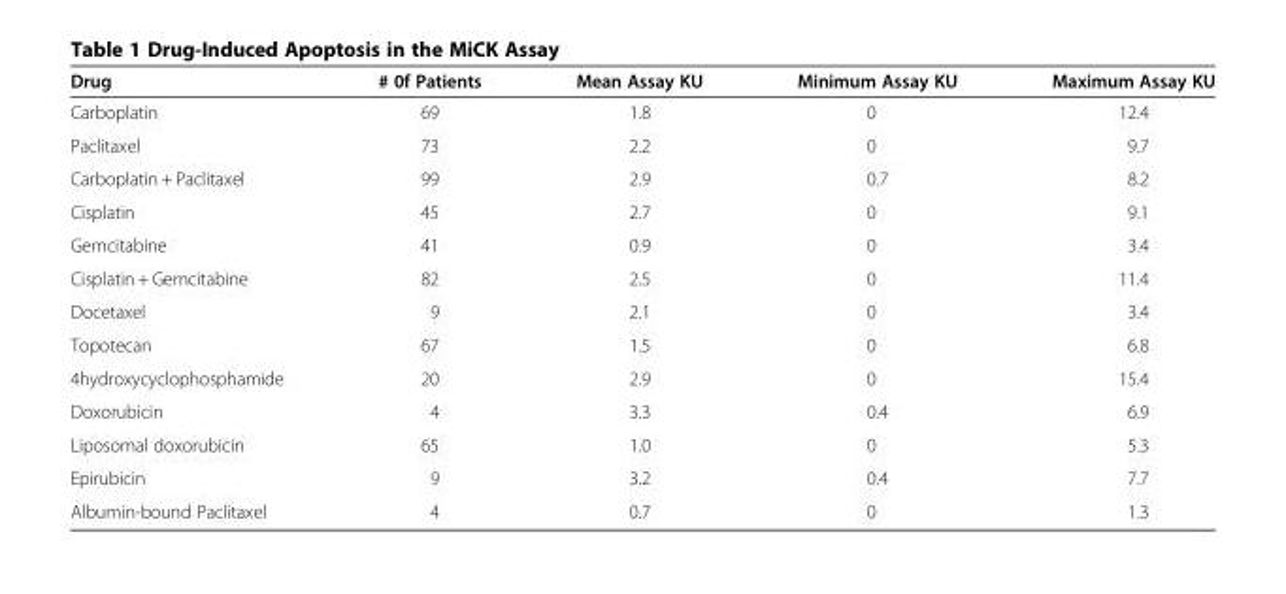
<table><thead><tr><td>Drug</td><td># 0f Patients</td><td>Mean Assay KU</td><td>Minimum Assay KU</td><td>Maximum Assay KU</td></tr></thead><tbody><tr><td>Carboplatin</td><td>69</td><td>1.8</td><td>0</td><td>12.4</td></tr><tr><td>Paclitaxel</td><td>73</td><td>2.2</td><td>0</td><td>9.7</td></tr><tr><td>Carboplatin + Paclitaxel</td><td>99</td><td>2.9</td><td>0.7</td><td>8.2</td></tr><tr><td>Cisplatin</td><td>45</td><td>2.7</td><td>0</td><td>9.1</td></tr><tr><td>Gemcitabine</td><td>41</td><td>0.9</td><td>0</td><td>3.4</td></tr><tr><td>Cisplatin + Gemcitabine</td><td>82</td><td>2.5</td><td>0</td><td>11.4</td></tr><tr><td>Docetaxel</td><td>9</td><td>2.1</td><td>0</td><td>3.4</td></tr><tr><td>Topotecan</td><td>67</td><td>1.5</td><td>0</td><td>6.8</td></tr><tr><td>4hydroxycyclophosphamide</td><td>20</td><td>2.9</td><td>0</td><td>15.4</td></tr><tr><td>Doxorubicin</td><td>4</td><td>3.3</td><td>0.4</td><td>6.9</td></tr><tr><td>Liposomal doxorubicin</td><td>65</td><td>1.0</td><td>0</td><td>5.3</td></tr><tr><td>Epirubicin</td><td>9</td><td>3.2</td><td>0.4</td><td>7.7</td></tr><tr><td>Albumin-bound Paclitaxel</td><td>4</td><td>0.7</td><td>0</td><td>1.3</td></tr></tbody></table>